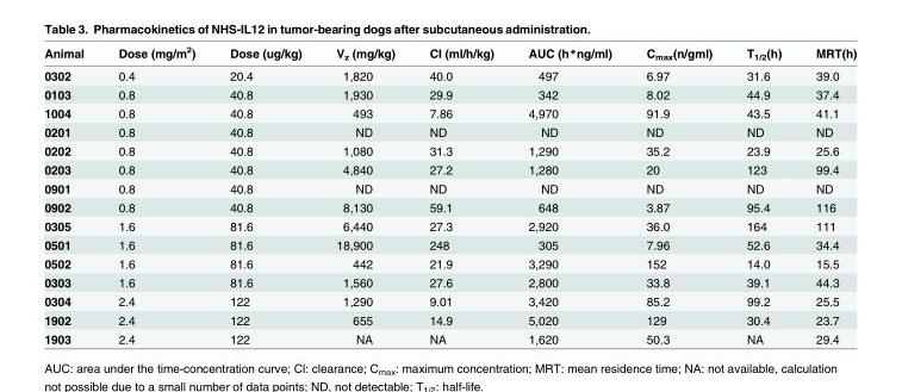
<table><thead><tr><td>Animal</td><td>Dose (mg/m<sup>2</sup>)</td><td>Dose (ug/kg)</td><td>V<sub>z</sub> (mg/kg)</td><td>CI (ml/h/kg)</td><td>AUC (h*ng/ml)</td><td>C<sub>max</sub>(n/gml)</td><td>T<sub>1/2</sub>(h)</td><td>MRT(h)</td></tr></thead><tbody><tr><td>0302</td><td>0.4</td><td>20.4</td><td>1,820</td><td>40.0</td><td>497</td><td>6.97</td><td>31.6</td><td>39.0</td></tr><tr><td>0103</td><td>0.8</td><td>40.8</td><td>1,930</td><td>29.9</td><td>342</td><td>8.02</td><td>44.9</td><td>37.4</td></tr><tr><td>1004</td><td>0.8</td><td>40.8</td><td>493</td><td>7.86</td><td>4,970</td><td>91.9</td><td>43.5</td><td>41.1</td></tr><tr><td>0201</td><td>0.8</td><td>40.8</td><td>ND</td><td>ND</td><td>ND</td><td>ND</td><td>ND</td><td>ND</td></tr><tr><td>0202</td><td>0.8</td><td>40.8</td><td>1,080</td><td>31.3</td><td>1,290</td><td>35.2</td><td>23.9</td><td>25.6</td></tr><tr><td>0203</td><td>0.8</td><td>40.8</td><td>4,840</td><td>27.2</td><td>1,280</td><td>20</td><td>123</td><td>99.4</td></tr><tr><td>0901</td><td>0.8</td><td>40.8</td><td>ND</td><td>ND</td><td>ND</td><td>ND</td><td>ND</td><td>ND</td></tr><tr><td>0902</td><td>0.8</td><td>40.8</td><td>8,130</td><td>59.1</td><td>648</td><td>3.87</td><td>95.4</td><td>116</td></tr><tr><td>0305</td><td>1.6</td><td>81.6</td><td>6,440</td><td>27.3</td><td>2,920</td><td>36.0</td><td>164</td><td>111</td></tr><tr><td>0501</td><td>1.6</td><td>81.6</td><td>18,900</td><td>248</td><td>305</td><td>7.96</td><td>52.6</td><td>34.4</td></tr><tr><td>0502</td><td>1.6</td><td>81.6</td><td>442</td><td>21.9</td><td>3,290</td><td>152</td><td>14.0</td><td>15.5</td></tr><tr><td>0303</td><td>1.6</td><td>81.6</td><td>1,560</td><td>27.6</td><td>2,800</td><td>33.8</td><td>39.1</td><td>44.3</td></tr><tr><td>0304</td><td>2.4</td><td>122</td><td>1,290</td><td>9.01</td><td>3,420</td><td>85.2</td><td>99.2</td><td>25.5</td></tr><tr><td>1902</td><td>2.4</td><td>122</td><td>655</td><td>14.9</td><td>5,020</td><td>129</td><td>30.4</td><td>23.7</td></tr><tr><td>1903</td><td>2.4</td><td>122</td><td>NA</td><td>NA</td><td>1,620</td><td>50.3</td><td>NA</td><td>29.4</td></tr></tbody></table>